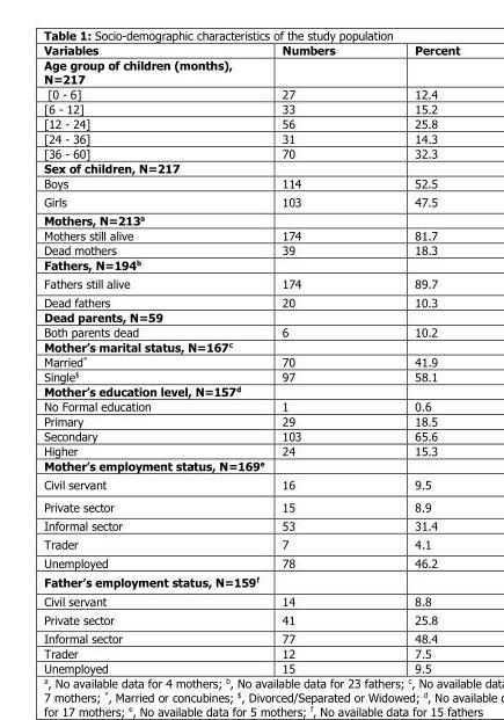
<table><thead><tr><td>Variables</td><td>Numbers</td><td>Percent</td></tr></thead><tbody><tr><td colspan="3">Age group of children (months), N=217</td></tr><tr><td>[0 - 6]</td><td>27</td><td>12.4</td></tr><tr><td>[6 - 12]</td><td>33</td><td>15.2</td></tr><tr><td>[12 - 24]</td><td>56</td><td>25.8</td></tr><tr><td>[24 - 36]</td><td>31</td><td>14.3</td></tr><tr><td>[36 - 60]</td><td>70</td><td>32.3</td></tr><tr><td colspan="3">Sex of children, N=217</td></tr><tr><td>Boys</td><td>114</td><td>52.5</td></tr><tr><td>Girls</td><td>103</td><td>47.5</td></tr><tr><td colspan="3">Mothers, N=213<sup>a</sup></td></tr><tr><td>Mothers still alive</td><td>174</td><td>81.7</td></tr><tr><td>Dead mothers</td><td>39</td><td>18.3</td></tr><tr><td colspan="3">Fathers, N=194<sup>b</sup></td></tr><tr><td>Fathers still alive</td><td>174</td><td>89.7</td></tr><tr><td>Dead fathers</td><td>20</td><td>10.3</td></tr><tr><td colspan="3">Dead parents, N=59</td></tr><tr><td>Both parents dead</td><td>6</td><td>10.2</td></tr><tr><td colspan="3">Mother’s marital status, N=167<sup>c</sup></td></tr><tr><td>Married*</td><td>70</td><td>41.9</td></tr><tr><td>Single<sup>$</sup></td><td>97</td><td>58.1</td></tr><tr><td colspan="3">Mother’s education level, N=157<sup>d</sup></td></tr><tr><td>No Formal education</td><td>1</td><td>0.6</td></tr><tr><td>Primary</td><td>29</td><td>18.5</td></tr><tr><td>Secondary</td><td>103</td><td>65.6</td></tr><tr><td>Higher</td><td>24</td><td>15.3</td></tr><tr><td colspan="3">Mother’s employment status, N=169<sup>e</sup></td></tr><tr><td>Civil servant</td><td>16</td><td>9.5</td></tr><tr><td>Private sector</td><td>15</td><td>8.9</td></tr><tr><td>Informal sector</td><td>53</td><td>31.4</td></tr><tr><td>Trader</td><td>7</td><td>4.1</td></tr><tr><td>Unemployed</td><td>78</td><td>46.2</td></tr><tr><td colspan="3">Father’s employment status, N=159<sup>f</sup></td></tr><tr><td>Civil servant</td><td>14</td><td>8.8</td></tr><tr><td>Private sector</td><td>41</td><td>25.8</td></tr><tr><td>Informal sector</td><td>77</td><td>48.4</td></tr><tr><td>Trader</td><td>12</td><td>7.5</td></tr><tr><td>Unemployed</td><td>15</td><td>9.5</td></tr></tbody></table>